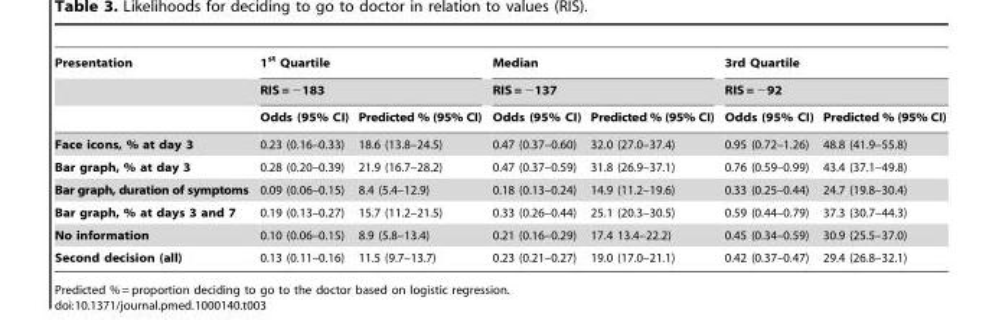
<table><thead><tr><td rowspan="3">Presentation</td><td rowspan="2" colspan="2">1<sup>st</sup> Quartile RIS = −183</td><td rowspan="2" colspan="2">Median RIS = −137</td><td rowspan="2" colspan="2">3rd Quartile RIS = −92</td></tr><tr></tr><tr><td>Odds (95% CI)</td><td>Predicted % (95% CI)</td><td>Odds (95% CI)</td><td>Predicted % (95% CI)</td><td>Odds (95% CI)</td><td>Predicted % (95% CI)</td></tr></thead><tbody><tr><td>Face icons, % at day 3</td><td>0.23 (0.16–0.33)</td><td>18.6 (13.8–24.5)</td><td>0.47 (0.37–0.60)</td><td>32.0 (27.0–37.4)</td><td>0.95 (0.72–1.26)</td><td>48.8 (41.9–55.8)</td></tr><tr><td>Bar graph, % at day 3</td><td>0.28 (0.20–0.39)</td><td>21.9 (16.7–28.2)</td><td>0.47 (0.37–0.59)</td><td>31.8 (26.9–37.1)</td><td>0.76 (0.59–0.99)</td><td>43.4 (37.1–49.8)</td></tr><tr><td>Bar graph, duration of symptoms</td><td>0.09 (0.06–0.15)</td><td>8.4 (5.4–12.9)</td><td>0.18 (0.13–0.24)</td><td>14.9 (11.2–19.6)</td><td>0.33 (0.25–0.44)</td><td>24.7 (19.8–30.4)</td></tr><tr><td>Bar graph, % at days 3 and 7</td><td>0.19 (0.13–0.27)</td><td>15.7 (11.2–21.5)</td><td>0.33 (0.26–0.44)</td><td>25.1 (20.3–30.5)</td><td>0.59 (0.44–0.79)</td><td>37.3 (30.7–44.3)</td></tr><tr><td>No information</td><td>0.10 (0.06–0.15)</td><td>8.9 (5.8–13.4)</td><td>0.21 (0.16–0.29)</td><td>17.4 13.4–22.2)</td><td>0.45 (0.34–0.59)</td><td>30.9 (25.5–37.0)</td></tr><tr><td>Second decision (all)</td><td>0.13 (0.11–0.16)</td><td>11.5 (9.7–13.7)</td><td>0.23 (0.21–0.27)</td><td>19.0 (17.0–21.1)</td><td>0.42 (0.37–0.47)</td><td>29.4 (26.8–32.1)</td></tr></tbody></table>